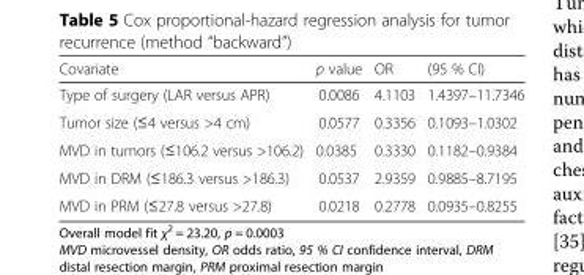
<table><thead><tr><td>Covariate</td><td>p value</td><td>OR</td><td>(95 % CI)</td></tr></thead><tbody><tr><td>Type of surgery (LAR versus APR)</td><td>0.0086</td><td>4.1103</td><td>1.4397–11.7346</td></tr><tr><td>Tumor size (≤4 versus &gt;4 cm)</td><td>0.0577</td><td>0.3356</td><td>0.1093–1.0302</td></tr><tr><td>MVD in tumors (≤106.2 versus &gt;106.2)</td><td>0.0385</td><td>0.3330</td><td>0.1182–0.9384</td></tr><tr><td>MVD in DRM (≤186.3 versus &gt;186.3)</td><td>0.0537</td><td>2.9359</td><td>0.9885–8.7195</td></tr><tr><td>MVD in PRM (≤27.8 versus &gt;27.8)</td><td>0.0218</td><td>0.2778</td><td>0.0935–0.8255</td></tr></tbody></table>